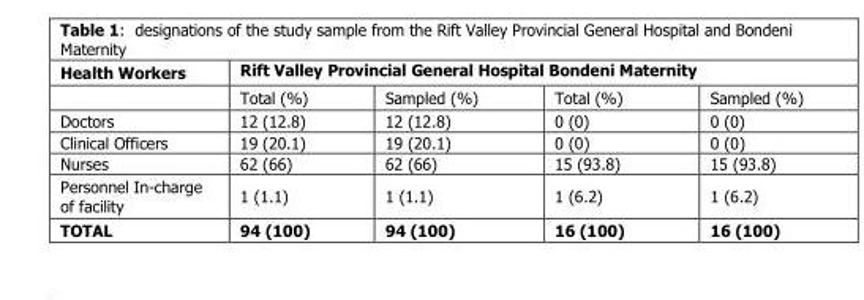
<table><thead><tr><td rowspan="2">Health Workers</td><td colspan="4">Rift Valley Provincial General Hospital Bondeni Maternity</td></tr><tr><td>Total (%)</td><td>Sampled (%)</td><td>Total (%)</td><td>Sampled (%)</td></tr></thead><tbody><tr><td>Doctors</td><td>12 (12.8)</td><td>12 (12.8)</td><td>0 (0)</td><td>0 (0)</td></tr><tr><td>Clinical Officers</td><td>19 (20.1)</td><td>19 (20.1)</td><td>0 (0)</td><td>0 (0)</td></tr><tr><td>Nurses</td><td>62 (66)</td><td>62 (66)</td><td>15 (93.8)</td><td>15 (93.8)</td></tr><tr><td>Personnel In-charge of facility</td><td>1 (1.1)</td><td>1 (1.1)</td><td>1 (6.2)</td><td>1 (6.2)</td></tr><tr><td>TOTAL</td><td>94 (100)</td><td>94 (100)</td><td>16 (100)</td><td>16 (100)</td></tr></tbody></table>